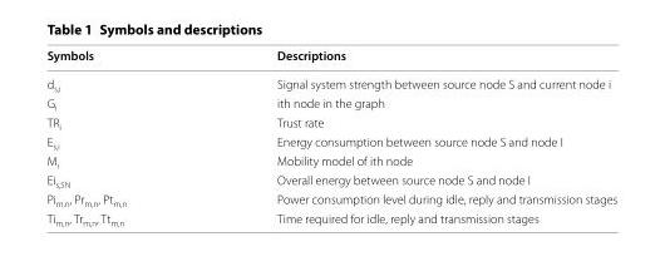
<table><thead><tr><td>Symbols</td><td>Descriptions</td></tr></thead><tbody><tr><td>d<sub>s,i</sub></td><td>Signal system strength between source node S and current node i</td></tr><tr><td>G<sub>i</sub></td><td>ith node in the graph</td></tr><tr><td>TR<sub>i</sub></td><td>Trust rate</td></tr><tr><td>E<sub>s,i</sub></td><td>Energy consumption between source node S and node I</td></tr><tr><td>M<sub>i</sub></td><td>Mobility model of ith node</td></tr><tr><td>Ei<sub>s,SN</sub></td><td>Overall energy between source node S and node I</td></tr><tr><td>Pi<sub>m,n</sub>, Pr<sub>m,n</sub>, Pt<sub>m,n</sub></td><td>Power consumption level during idle, reply and transmission stages</td></tr><tr><td>Ti<sub>m,n</sub>, Tr<sub>m,n</sub>, Tt<sub>m,n</sub></td><td>Time required for idle, reply and transmission stages</td></tr></tbody></table>